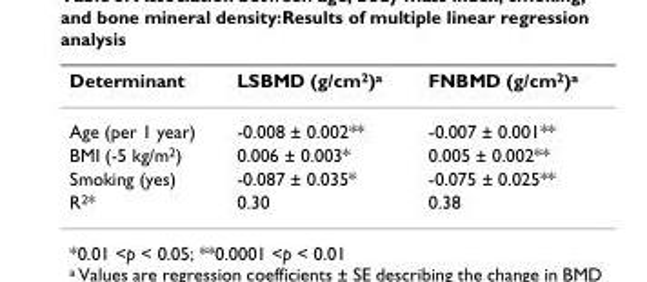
<table><thead><tr><td>Determinant</td><td>LSBMD (g/cm<sup>2</sup>)<sup>a</sup></td><td>FNBMD (g/cm<sup>2</sup>)<sup>a</sup></td></tr></thead><tbody><tr><td>Age (per 1 year)</td><td>-0.008 ± 0.002**</td><td>-0.007 ± 0.001**</td></tr><tr><td>BMI (-5 kg/m<sup>2</sup>)</td><td>0.006 ± 0.003*</td><td>0.005 ± 0.002**</td></tr><tr><td>Smoking (yes)</td><td>-0.087 ± 0.035*</td><td>-0.075 ± 0.025**</td></tr><tr><td>R<sup>2</sup>*</td><td>0.30</td><td>0.38</td></tr></tbody></table>